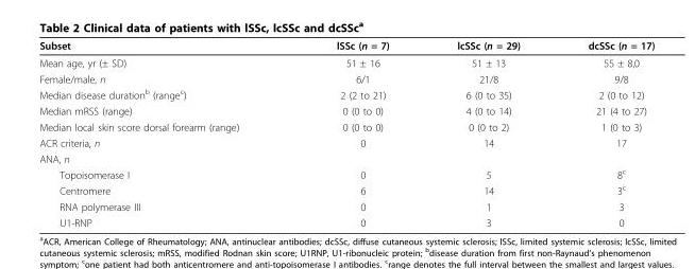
<table><thead><tr><td>Subset</td><td>lSSc (n = 7)</td><td>lcSSc (n = 29)</td><td>dcSSc (n = 17)</td></tr></thead><tbody><tr><td>Mean age, yr (± SD)</td><td>51 ± 16</td><td>51 ± 13</td><td>55 ± 8,0</td></tr><tr><td>Female/male, n</td><td>6/1</td><td>21/8</td><td>9/8</td></tr><tr><td>Median disease duration<sup>b</sup> (range<sup>c</sup>)</td><td>2 (2 to 21)</td><td>6 (0 to 35)</td><td>2 (0 to 12)</td></tr><tr><td>Median mRSS (range)</td><td>0 (0 to 0)</td><td>4 (0 to 14)</td><td>21 (4 to 27)</td></tr><tr><td>Median local skin score dorsal forearm (range)</td><td>0 (0 to 0)</td><td>0 (0 to 2)</td><td>1 (0 to 3)</td></tr><tr><td>ACR criteria, n</td><td>0</td><td>14</td><td>17</td></tr><tr><td colspan="4">ANA, n</td></tr><tr><td>Topoisomerase I</td><td>0</td><td>5</td><td>8<sup>c</sup></td></tr><tr><td>Centromere</td><td>6</td><td>14</td><td>3<sup>c</sup></td></tr><tr><td>RNA polymerase III</td><td>0</td><td>1</td><td>3</td></tr><tr><td>U1-RNP</td><td>0</td><td>3</td><td>0</td></tr></tbody></table>